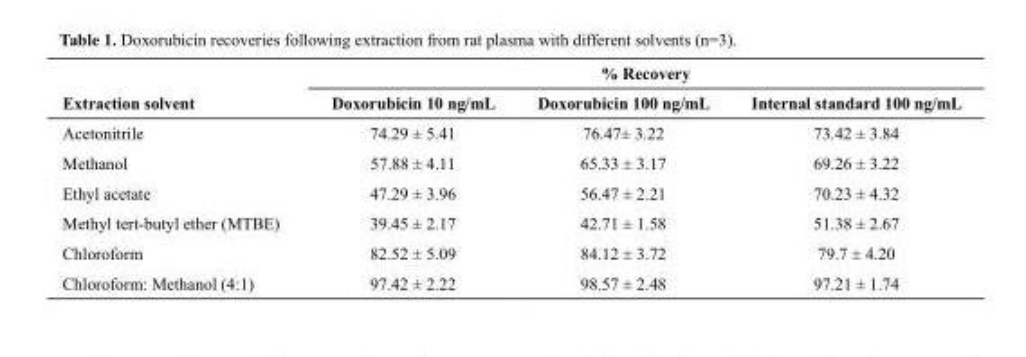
<table><thead><tr><td rowspan="2">Extraction solvent</td><td colspan="3">% Recovery</td></tr><tr><td>Doxorubicin 10 ng/mL</td><td>Doxorubicin 100 ng/mL</td><td>Internal standard 100 ng/mL</td></tr></thead><tbody><tr><td>Acetonitrile</td><td>74.29 ± 5.41</td><td>76.47± 3.22</td><td>73.42 ± 3.84</td></tr><tr><td>Methanol</td><td>57.88 ± 4.11</td><td>65.33 ± 3.17</td><td>69.26 ± 3.22</td></tr><tr><td>Ethyl acetate</td><td>47.29 ± 3.96</td><td>56.47 ± 2.21</td><td>70.23 ± 4.32</td></tr><tr><td>Methyl tert-butyl ether (MTBE)</td><td>39.45 ± 2.17</td><td>42.71 ± 1.58</td><td>51.38 ± 2.67</td></tr><tr><td>Chloroform</td><td>82.52 ± 5.09</td><td>84.12 ± 3.72</td><td>79.7 ± 4.20</td></tr><tr><td>Chloroform: Methanol (4:1)</td><td>97.42 ± 2.22</td><td>98.57 ± 2.48</td><td>97.21 ± 1.74</td></tr></tbody></table>